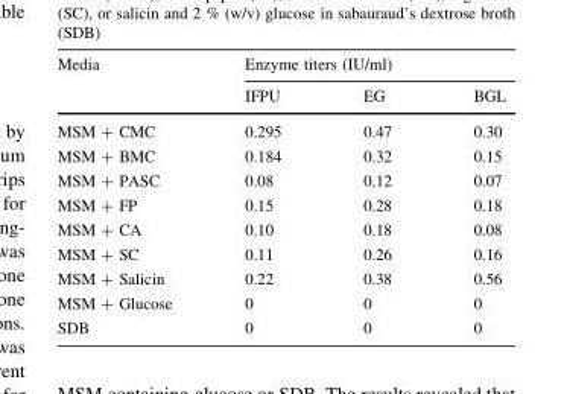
<table><thead><tr><td rowspan="2">Media</td><td colspan="3">Enzyme titers (IU/ml)</td></tr><tr><td>IFPU</td><td>EG</td><td>BGL</td></tr></thead><tbody><tr><td>MSM + CMC</td><td>0.295</td><td>0.47</td><td>0.30</td></tr><tr><td>MSM + BMC</td><td>0.184</td><td>0.32</td><td>0.15</td></tr><tr><td>MSM + PASC</td><td>0.08</td><td>0.12</td><td>0.07</td></tr><tr><td>MSM + FP</td><td>0.15</td><td>0.28</td><td>0.18</td></tr><tr><td>MSM + CA</td><td>0.10</td><td>0.18</td><td>0.08</td></tr><tr><td>MSM + SC</td><td>0.11</td><td>0.26</td><td>0.16</td></tr><tr><td>MSM + Salicin</td><td>0.22</td><td>0.38</td><td>0.56</td></tr><tr><td>MSM + Glucose</td><td>0</td><td>0</td><td>0</td></tr><tr><td>SDB</td><td>0</td><td>0</td><td>0</td></tr></tbody></table>